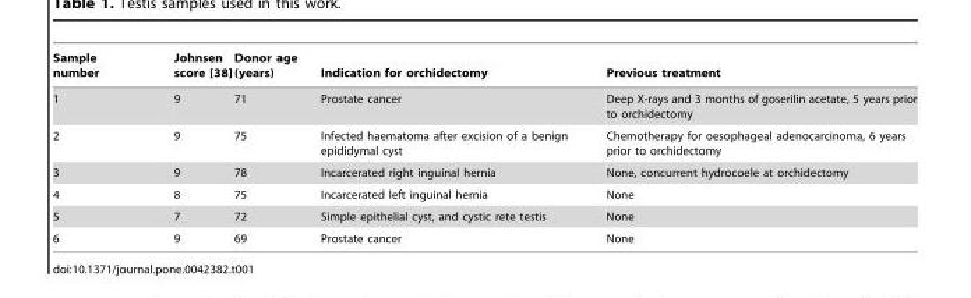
<table><thead><tr><td>Sample number</td><td>Johnsen score [38]</td><td>Donor age (years)</td><td>Indication for orchidectomy</td><td>Previous treatment</td></tr></thead><tbody><tr><td>1</td><td>9</td><td>71</td><td>Prostate cancer</td><td>Deep X-rays and 3 months of goserilin acetate, 5 years prior to orchidectomy</td></tr><tr><td>2</td><td>9</td><td>75</td><td>Infected haematoma after excision of a benign epididymal cyst</td><td>Chemotherapy for oesophageal adenocarcinoma, 6 years prior to orchidectomy</td></tr><tr><td>3</td><td>9</td><td>78</td><td>Incarcerated right inguinal hernia</td><td>None, concurrent hydrocoele at orchidectomy</td></tr><tr><td>4</td><td>8</td><td>75</td><td>Incarcerated left inguinal hernia</td><td>None</td></tr><tr><td>5</td><td>7</td><td>72</td><td>Simple epithelial cyst, and cystic rete testis</td><td>None</td></tr><tr><td>6</td><td>9</td><td>69</td><td>Prostate cancer</td><td>None</td></tr></tbody></table>